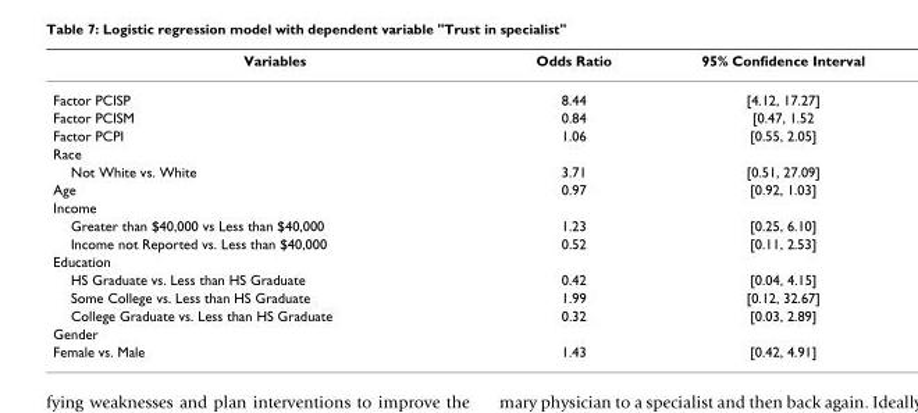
<table><thead><tr><td>Variables</td><td>Odds Ratio</td><td>95% Confidence Interval</td></tr></thead><tbody><tr><td>Factor PCISP</td><td>8.44</td><td>[4.12, 17.27]</td></tr><tr><td>Factor PCISM</td><td>0.84</td><td>[0.47, 1.52</td></tr><tr><td>Factor PCPI</td><td>1.06</td><td>[0.55, 2.05]</td></tr><tr><td colspan="3">Race</td></tr><tr><td>Not White vs. White</td><td>3.71</td><td>[0.51, 27.09]</td></tr><tr><td>Age</td><td>0.97</td><td>[0.92, 1.03]</td></tr><tr><td colspan="3">Income</td></tr><tr><td>Greater than $40,000 vs Less than $40,000</td><td>1.23</td><td>[0.25, 6.10]</td></tr><tr><td>Income not Reported vs. Less than $40,000</td><td>0.52</td><td>[0.11, 2.53]</td></tr><tr><td colspan="3">Education</td></tr><tr><td>HS Graduate vs. Less than HS Graduate</td><td>0.42</td><td>[0.04, 4.15]</td></tr><tr><td>Some College vs. Less than HS Graduate</td><td>1.99</td><td>[0.12, 32.67]</td></tr><tr><td>College Graduate vs. Less than HS Graduate</td><td>0.32</td><td>[0.03, 2.89]</td></tr><tr><td colspan="3">Gender</td></tr><tr><td>Female vs. Male</td><td>1.43</td><td>[0.42, 4.91]</td></tr></tbody></table>